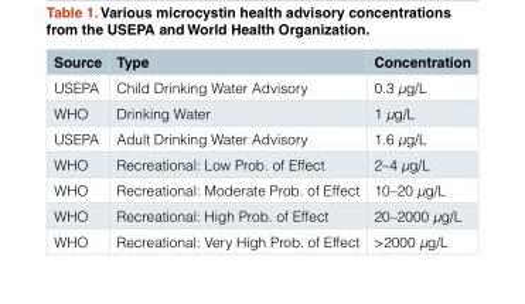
<table><thead><tr><td>Source</td><td>Type</td><td>Concentration</td></tr></thead><tbody><tr><td>USEPA</td><td>Child Drinking Water Advisory</td><td>0.3 µg/L</td></tr><tr><td>WHO</td><td>Drinking Water</td><td>1 µg/L</td></tr><tr><td>USEPA</td><td>Adult Drinking Water Advisory</td><td>1.6 µg/L</td></tr><tr><td>WHO</td><td>Recreational: Low Prob. of Effect</td><td>2–4 µg/L</td></tr><tr><td>WHO</td><td>Recreational: Moderate Prob. of Effect</td><td>10–20 µg/L</td></tr><tr><td>WHO</td><td>Recreational: High Prob. of Effect</td><td>20–2000 µg/L</td></tr><tr><td>WHO</td><td>Recreational: Very High Prob. of Effect</td><td>&gt;2000 µg/L</td></tr></tbody></table>